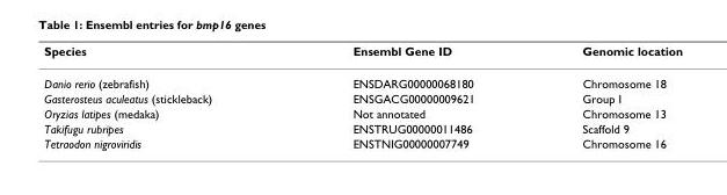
<table><thead><tr><td>Species</td><td>Ensembl Gene ID</td><td>Genomic location</td></tr></thead><tbody><tr><td>Danio rerio (zebrafish)</td><td>ENSDARG00000068180</td><td>Chromosome 18</td></tr><tr><td>Gasterosteus aculeatus (stickleback)</td><td>ENSGACG00000009621</td><td>Group I</td></tr><tr><td>Oryzias latipes (medaka)</td><td>Not annotated</td><td>Chromosome 13</td></tr><tr><td>Takifugu rubripes</td><td>ENSTRUG00000011486</td><td>Scaffold 9</td></tr><tr><td>Tetraodon nigroviridis</td><td>ENSTNIG00000007749</td><td>Chromosome 16</td></tr></tbody></table>